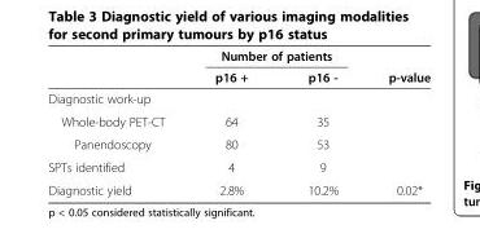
<table><thead><tr><td rowspan="2"></td><td colspan="2">Number of patients</td><td rowspan="2">p-value</td></tr><tr><td>p16 +</td><td>p16 -</td></tr></thead><tbody><tr><td colspan="4">Diagnostic work-up</td></tr><tr><td>Whole-body PET-CT</td><td>64</td><td>35</td><td></td></tr><tr><td>Panendoscopy</td><td>80</td><td>53</td><td></td></tr><tr><td>SPTs identified</td><td>4</td><td>9</td><td></td></tr><tr><td>Diagnostic yield</td><td>2.8%</td><td>10.2%</td><td>0.02*</td></tr></tbody></table>